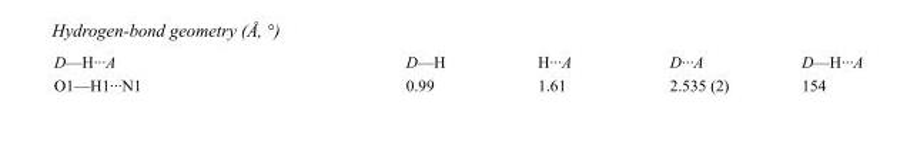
<table><tbody><tr><td>D—H···A</td><td>D—H</td><td>H···A</td><td>D···A</td><td>D—H···A</td></tr><tr><td>O1—H1···N1</td><td>0.99</td><td>1.61</td><td>2.535 (2)</td><td>154</td></tr></tbody></table>